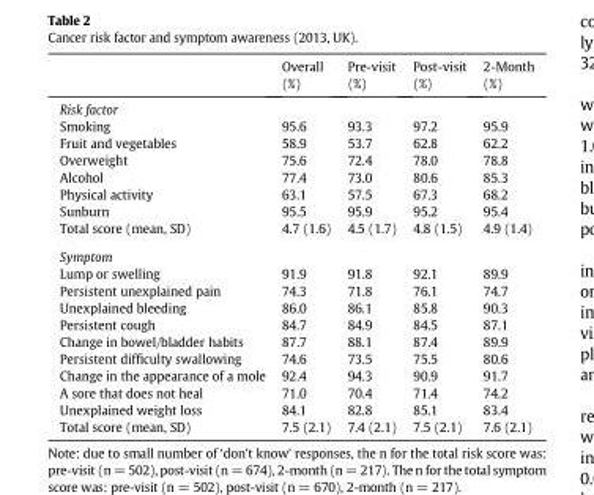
<table><thead><tr><td></td><td>Overall (%)</td><td>Pre-visit (%)</td><td>Post-visit (%)</td><td>2-Month (%)</td></tr></thead><tbody><tr><td colspan="5">Risk factor</td></tr><tr><td>Smoking</td><td>95.6</td><td>93.3</td><td>97.2</td><td>95.9</td></tr><tr><td>Fruit and vegetables</td><td>58.9</td><td>53.7</td><td>62.8</td><td>62.2</td></tr><tr><td>Overweight</td><td>75.6</td><td>72.4</td><td>78.0</td><td>78.8</td></tr><tr><td>Alcohol</td><td>77.4</td><td>73.0</td><td>80.6</td><td>85.3</td></tr><tr><td>Physical activity</td><td>63.1</td><td>57.5</td><td>67.3</td><td>68.2</td></tr><tr><td>Sunburn</td><td>95.5</td><td>95.9</td><td>95.2</td><td>95.4</td></tr><tr><td>Total score (mean, SD)</td><td>4.7 (1.6)</td><td>4.5 (1.7)</td><td>4.8 (1.5)</td><td>4.9 (1.4)</td></tr><tr><td colspan="5">Symptom</td></tr><tr><td>Lump or swelling</td><td>91.9</td><td>91.8</td><td>92.1</td><td>89.9</td></tr><tr><td>Persistent unexplained pain</td><td>74.3</td><td>71.8</td><td>76.1</td><td>74.7</td></tr><tr><td>Unexplained bleeding</td><td>86.0</td><td>86.1</td><td>85.8</td><td>90.3</td></tr><tr><td>Persistent cough</td><td>84.7</td><td>84.9</td><td>84.5</td><td>87.1</td></tr><tr><td>Change in bowel/bladder habits</td><td>87.7</td><td>88.1</td><td>87.4</td><td>89.9</td></tr><tr><td>Persistent difficulty swallowing</td><td>74.6</td><td>73.5</td><td>75.5</td><td>80.6</td></tr><tr><td>Change in the appearance of a mole</td><td>92.4</td><td>94.3</td><td>90.9</td><td>91.7</td></tr><tr><td>A sore that does not heal</td><td>71.0</td><td>70.4</td><td>71.4</td><td>74.2</td></tr><tr><td>Unexplained weight loss</td><td>84.1</td><td>82.8</td><td>85.1</td><td>83.4</td></tr><tr><td>Total score (mean, SD)</td><td>7.5 (2.1)</td><td>7.4 (2.1)</td><td>7.5 (2.1)</td><td>7.6 (2.1)</td></tr></tbody></table>